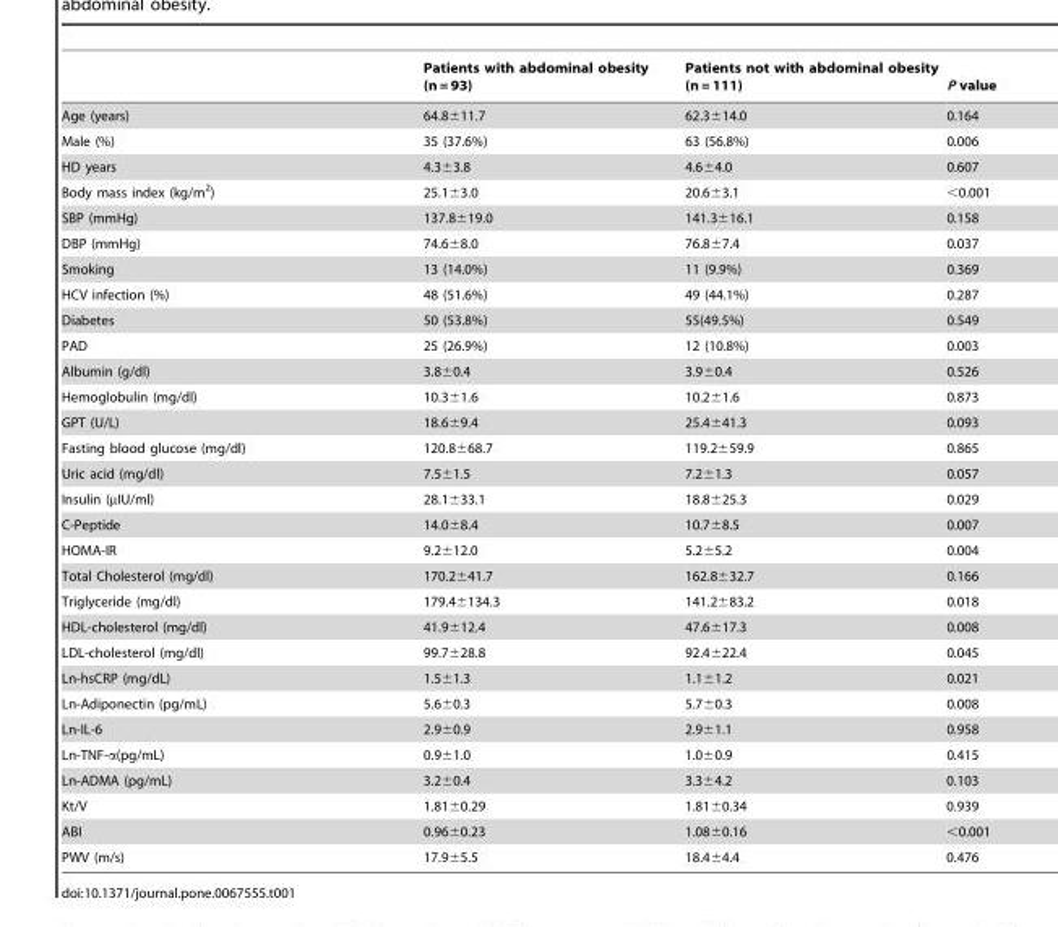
<table><thead><tr><td></td><td>Patients with abdominal obesity (n = 93)</td><td>Patients not with abdominal obesity (n = 111)</td><td>P value</td></tr></thead><tbody><tr><td>Age (years)</td><td>64.8±11.7</td><td>62.3±14.0</td><td>0.164</td></tr><tr><td>Male (%)</td><td>35 (37.6%)</td><td>63 (56.8%)</td><td>0.006</td></tr><tr><td>HD years</td><td>4.3±3.8</td><td>4.6±4.0</td><td>0.607</td></tr><tr><td>Body mass index (kg/m<sup>2</sup>)</td><td>25.1±3.0</td><td>20.6±3.1</td><td>&lt;0.001</td></tr><tr><td>SBP (mmHg)</td><td>137.8±19.0</td><td>141.3±16.1</td><td>0.158</td></tr><tr><td>DBP (mmHg)</td><td>74.6±8.0</td><td>76.8±7.4</td><td>0.037</td></tr><tr><td>Smoking</td><td>13 (14.0%)</td><td>11 (9.9%)</td><td>0.369</td></tr><tr><td>HCV infection (%)</td><td>48 (51.6%)</td><td>49 (44.1%)</td><td>0.287</td></tr><tr><td>Diabetes</td><td>50 (53.8%)</td><td>55(49.5%)</td><td>0.549</td></tr><tr><td>PAD</td><td>25 (26.9%)</td><td>12 (10.8%)</td><td>0.003</td></tr><tr><td>Albumin (g/dl)</td><td>3.8±0.4</td><td>3.9±0.4</td><td>0.526</td></tr><tr><td>Hemoglobulin (mg/dl)</td><td>10.3±1.6</td><td>10.2±1.6</td><td>0.873</td></tr><tr><td>GPT (U/L)</td><td>18.6±9.4</td><td>25.4±41.3</td><td>0.093</td></tr><tr><td>Fasting blood glucose (mg/dl)</td><td>120.8±68.7</td><td>119.2±59.9</td><td>0.865</td></tr><tr><td>Uric acid (mg/dl)</td><td>7.5±1.5</td><td>7.2±1.3</td><td>0.057</td></tr><tr><td>Insulin (µIU/ml)</td><td>28.1±33.1</td><td>18.8±25.3</td><td>0.029</td></tr><tr><td>C-Peptide</td><td>14.0±8.4</td><td>10.7±8.5</td><td>0.007</td></tr><tr><td>HOMA-IR</td><td>9.2±12.0</td><td>5.2±5.2</td><td>0.004</td></tr><tr><td>Total Cholesterol (mg/dl)</td><td>170.2±41.7</td><td>162.8±32.7</td><td>0.166</td></tr><tr><td>Triglyceride (mg/dl)</td><td>179.4±134.3</td><td>141.2±83.2</td><td>0.018</td></tr><tr><td>HDL-cholesterol (mg/dl)</td><td>41.9±12.4</td><td>47.6±17.3</td><td>0.008</td></tr><tr><td>LDL-cholesterol (mg/dl)</td><td>99.7±28.8</td><td>92.4±22.4</td><td>0.045</td></tr><tr><td>Ln-hsCRP (mg/dL)</td><td>1.5±1.3</td><td>1.1±1.2</td><td>0.021</td></tr><tr><td>Ln-Adiponectin (pg/mL)</td><td>5.6±0.3</td><td>5.7±0.3</td><td>0.008</td></tr><tr><td>Ln-IL-6</td><td>2.9±0.9</td><td>2.9±1.1</td><td>0.958</td></tr><tr><td>Ln-TNF-α(pg/mL)</td><td>0.9±1.0</td><td>1.0±0.9</td><td>0.415</td></tr><tr><td>Ln-ADMA (pg/mL)</td><td>3.2±0.4</td><td>3.3±4.2</td><td>0.103</td></tr><tr><td>Kt/V</td><td>1.81±0.29</td><td>1.81±0.34</td><td>0.939</td></tr><tr><td>ABI</td><td>0.96±0.23</td><td>1.08±0.16</td><td>&lt;0.001</td></tr><tr><td>PWV (m/s)</td><td>17.9±5.5</td><td>18.4±4.4</td><td>0.476</td></tr></tbody></table>